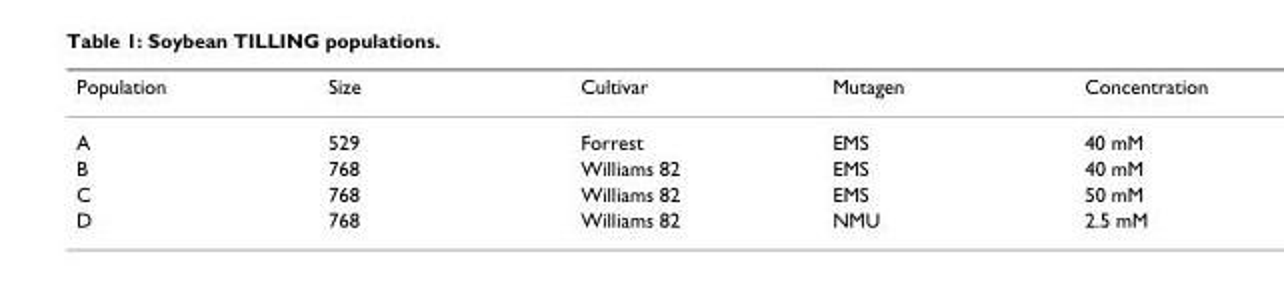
<table><thead><tr><td>Population</td><td>Size</td><td>Cultivar</td><td>Mutagen</td><td>Concentration</td></tr></thead><tbody><tr><td>A</td><td>529</td><td>Forrest</td><td>EMS</td><td>40 mM</td></tr><tr><td>B</td><td>768</td><td>Williams 82</td><td>EMS</td><td>40 mM</td></tr><tr><td>C</td><td>768</td><td>Williams 82</td><td>EMS</td><td>50 mM</td></tr><tr><td>D</td><td>768</td><td>Williams 82</td><td>NMU</td><td>2.5 mM</td></tr></tbody></table>